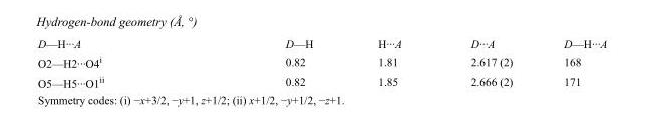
<table><tbody><tr><td>D—H···A</td><td>D—H</td><td>H···A</td><td>D···A</td><td>D—H···A</td></tr><tr><td>O2—H2···O4<sup>i</sup></td><td>0.82</td><td>1.81</td><td>2.617 (2)</td><td>168</td></tr><tr><td>O5—H5···O1<sup>ii</sup></td><td>0.82</td><td>1.85</td><td>2.666 (2)</td><td>171</td></tr></tbody></table>